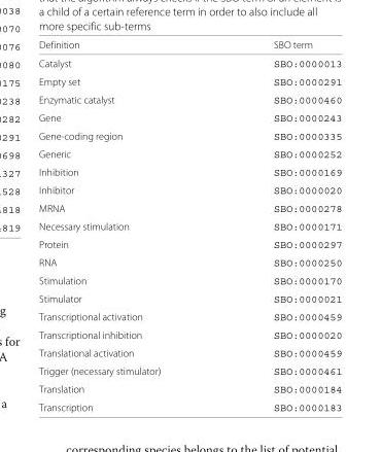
<table><thead><tr><td>Definition</td><td>SBO term</td></tr></thead><tbody><tr><td>Catalyst</td><td>SBO:0000013</td></tr><tr><td>Empty set</td><td>SBO:0000291</td></tr><tr><td>Enzymatic catalyst</td><td>SBO:0000460</td></tr><tr><td>Gene</td><td>SBO:0000243</td></tr><tr><td>Gene-coding region</td><td>SBO:0000335</td></tr><tr><td>Generic</td><td>SBO:0000252</td></tr><tr><td>Inhibition</td><td>SBO:0000169</td></tr><tr><td>Inhibitor</td><td>SBO:0000020</td></tr><tr><td>MRNA</td><td>SBO:0000278</td></tr><tr><td>Necessary stimulation</td><td>SBO:0000171</td></tr><tr><td>Protein</td><td>SBO:0000297</td></tr><tr><td>RNA</td><td>SBO:0000250</td></tr><tr><td>Stimulation</td><td>SBO:0000170</td></tr><tr><td>Stimulator</td><td>SBO:0000021</td></tr><tr><td>Transcriptional activation</td><td>SBO:0000459</td></tr><tr><td>Transcriptional inhibition</td><td>SBO:0000020</td></tr><tr><td>Translational activation</td><td>SBO:0000459</td></tr><tr><td>Trigger (necessary stimulator)</td><td>SBO:0000461</td></tr><tr><td>Translation</td><td>SBO:0000184</td></tr><tr><td>Transcription</td><td>SBO:0000183</td></tr></tbody></table>